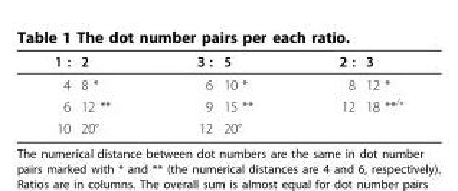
<table><thead><tr><td>1 :</td><td>2</td><td>3 :</td><td>5</td><td>2 :</td><td>3</td></tr></thead><tbody><tr><td>4</td><td>8 *</td><td>6</td><td>10 *</td><td>8</td><td>12 *</td></tr><tr><td>6</td><td>12 **</td><td>9</td><td>15 **</td><td>12</td><td>18 **<sup>/</sup>°</td></tr><tr><td>10</td><td>20°</td><td>12</td><td>20°</td><td></td><td></td></tr></tbody></table>